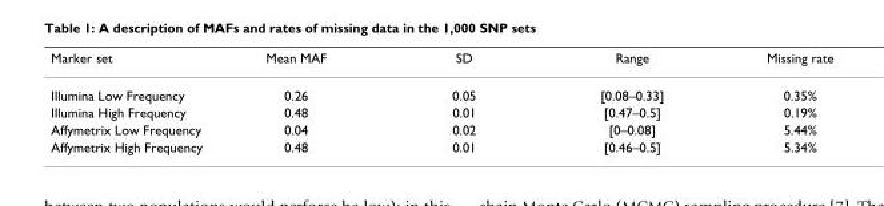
<table><thead><tr><td>Marker set</td><td>Mean MAF</td><td>SD</td><td>Range</td><td>Missing rate</td></tr></thead><tbody><tr><td>Illumina Low Frequency</td><td>0.26</td><td>0.05</td><td>[0.08–0.33]</td><td>0.35%</td></tr><tr><td>Illumina High Frequency</td><td>0.48</td><td>0.01</td><td>[0.47–0.5]</td><td>0.19%</td></tr><tr><td>Affymetrix Low Frequency</td><td>0.04</td><td>0.02</td><td>[0–0.08]</td><td>5.44%</td></tr><tr><td>Affymetrix High Frequency</td><td>0.48</td><td>0.01</td><td>[0.46–0.5]</td><td>5.34%</td></tr></tbody></table>